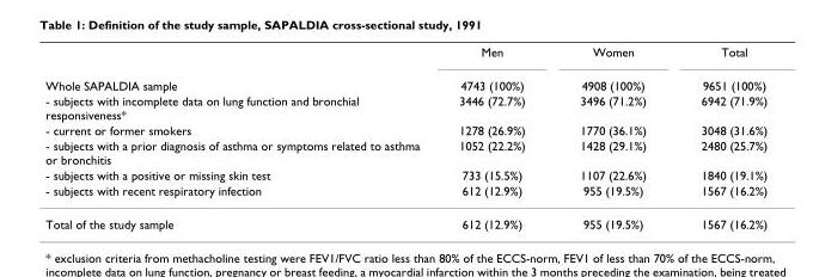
<table><thead><tr><td rowspan="7">Whole SAPALDIA sample - subjects with incomplete data on lung function and bronchial responsiveness* - current or former smokers - subjects with a prior diagnosis of asthma or symptoms related to asthma or bronchitis - subjects with a positive or missing skin test - subjects with recent respiratory infection</td><td rowspan="7">Men 4743 (100%) 3446 (72.7%) 1278 (26.9%) 1052 (22.2%) 733 (15.5%) 612 (12.9%)</td><td rowspan="7">Women 4908 (100%) 3496 (71.2%) 1770 (36.1%) 1428 (29.1%) 1107 (22.6%) 955 (19.5%)</td><td rowspan="7">Total 9651 (100%) 6942 (71.9%) 3048 (31.6%) 2480 (25.7%) 1840 (19.1%) 1567 (16.2%)</td></tr><tr></tr><tr></tr><tr></tr><tr></tr><tr></tr><tr></tr></thead><tbody><tr><td>Total of the study sample</td><td>612 (12.9%)</td><td>955 (19.5%)</td><td>1567 (16.2%)</td></tr></tbody></table>